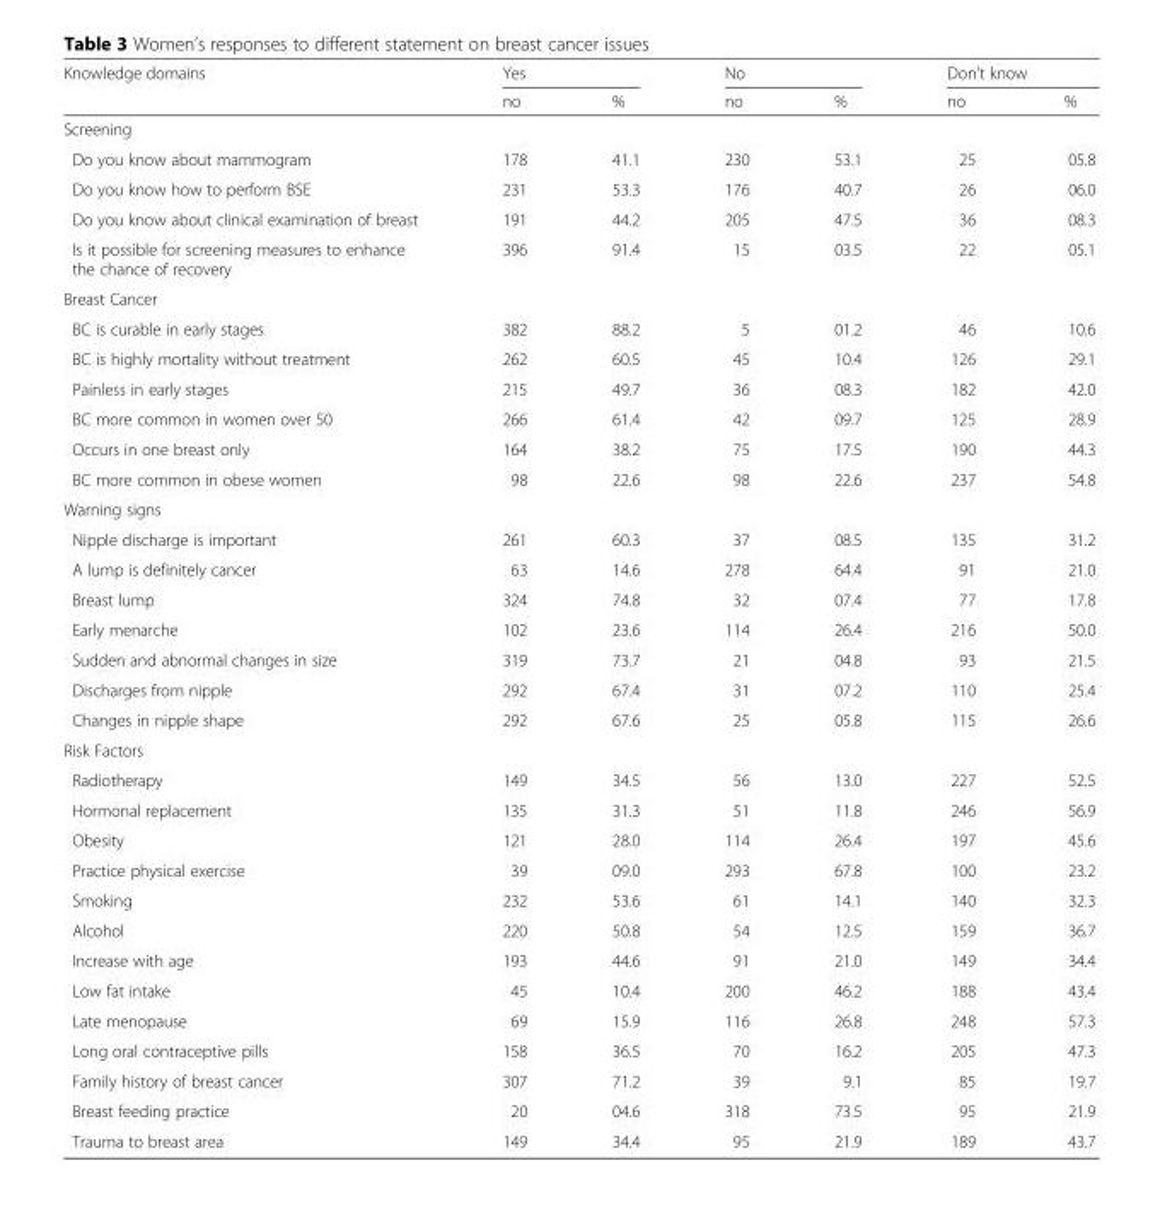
<table><thead><tr><td rowspan="2">Knowledge domains</td><td colspan="2">Yes</td><td colspan="2">No</td><td colspan="2">Don’t know</td></tr><tr><td>no</td><td>%</td><td>no</td><td>%</td><td>no</td><td>%</td></tr></thead><tbody><tr><td colspan="7">Screening</td></tr><tr><td>Do you know about mammogram</td><td>178</td><td>41.1</td><td>230</td><td>53.1</td><td>25</td><td>05.8</td></tr><tr><td>Do you know how to perform BSE</td><td>231</td><td>53.3</td><td>176</td><td>40.7</td><td>26</td><td>06.0</td></tr><tr><td>Do you know about clinical examination of breast</td><td>191</td><td>44.2</td><td>205</td><td>47.5</td><td>36</td><td>08.3</td></tr><tr><td>Is it possible for screening measures to enhance the chance of recovery</td><td>396</td><td>91.4</td><td>15</td><td>03.5</td><td>22</td><td>05.1</td></tr><tr><td colspan="7">Breast Cancer</td></tr><tr><td>BC is curable in early stages</td><td>382</td><td>88.2</td><td>5</td><td>01.2</td><td>46</td><td>10.6</td></tr><tr><td>BC is highly mortality without treatment</td><td>262</td><td>60.5</td><td>45</td><td>10.4</td><td>126</td><td>29.1</td></tr><tr><td>Painless in early stages</td><td>215</td><td>49.7</td><td>36</td><td>08.3</td><td>182</td><td>42.0</td></tr><tr><td>BC more common in women over 50</td><td>266</td><td>61.4</td><td>42</td><td>09.7</td><td>125</td><td>28.9</td></tr><tr><td>Occurs in one breast only</td><td>164</td><td>38.2</td><td>75</td><td>17.5</td><td>190</td><td>44.3</td></tr><tr><td>BC more common in obese women</td><td>98</td><td>22.6</td><td>98</td><td>22.6</td><td>237</td><td>54.8</td></tr><tr><td colspan="7">Warning signs</td></tr><tr><td>Nipple discharge is important</td><td>261</td><td>60.3</td><td>37</td><td>08.5</td><td>135</td><td>31.2</td></tr><tr><td>A lump is definitely cancer</td><td>63</td><td>14.6</td><td>278</td><td>64.4</td><td>91</td><td>21.0</td></tr><tr><td>Breast lump</td><td>324</td><td>74.8</td><td>32</td><td>07.4</td><td>77</td><td>17.8</td></tr><tr><td>Early menarche</td><td>102</td><td>23.6</td><td>114</td><td>26.4</td><td>216</td><td>50.0</td></tr><tr><td>Sudden and abnormal changes in size</td><td>319</td><td>73.7</td><td>21</td><td>04.8</td><td>93</td><td>21.5</td></tr><tr><td>Discharges from nipple</td><td>292</td><td>67.4</td><td>31</td><td>07.2</td><td>110</td><td>25.4</td></tr><tr><td>Changes in nipple shape</td><td>292</td><td>67.6</td><td>25</td><td>05.8</td><td>115</td><td>26.6</td></tr><tr><td colspan="7">Risk Factors</td></tr><tr><td>Radiotherapy</td><td>149</td><td>34.5</td><td>56</td><td>13.0</td><td>227</td><td>52.5</td></tr><tr><td>Hormonal replacement</td><td>135</td><td>31.3</td><td>51</td><td>11.8</td><td>246</td><td>56.9</td></tr><tr><td>Obesity</td><td>121</td><td>28.0</td><td>114</td><td>26.4</td><td>197</td><td>45.6</td></tr><tr><td>Practice physical exercise</td><td>39</td><td>09.0</td><td>293</td><td>67.8</td><td>100</td><td>23.2</td></tr><tr><td>Smoking</td><td>232</td><td>53.6</td><td>61</td><td>14.1</td><td>140</td><td>32.3</td></tr><tr><td>Alcohol</td><td>220</td><td>50.8</td><td>54</td><td>12.5</td><td>159</td><td>36.7</td></tr><tr><td>Increase with age</td><td>193</td><td>44.6</td><td>91</td><td>21.0</td><td>149</td><td>34.4</td></tr><tr><td>Low fat intake</td><td>45</td><td>10.4</td><td>200</td><td>46.2</td><td>188</td><td>43.4</td></tr><tr><td>Late menopause</td><td>69</td><td>15.9</td><td>116</td><td>26.8</td><td>248</td><td>57.3</td></tr><tr><td>Long oral contraceptive pills</td><td>158</td><td>36.5</td><td>70</td><td>16.2</td><td>205</td><td>47.3</td></tr><tr><td>Family history of breast cancer</td><td>307</td><td>71.2</td><td>39</td><td>9.1</td><td>85</td><td>19.7</td></tr><tr><td>Breast feeding practice</td><td>20</td><td>04.6</td><td>318</td><td>73.5</td><td>95</td><td>21.9</td></tr><tr><td>Trauma to breast area</td><td>149</td><td>34.4</td><td>95</td><td>21.9</td><td>189</td><td>43.7</td></tr></tbody></table>